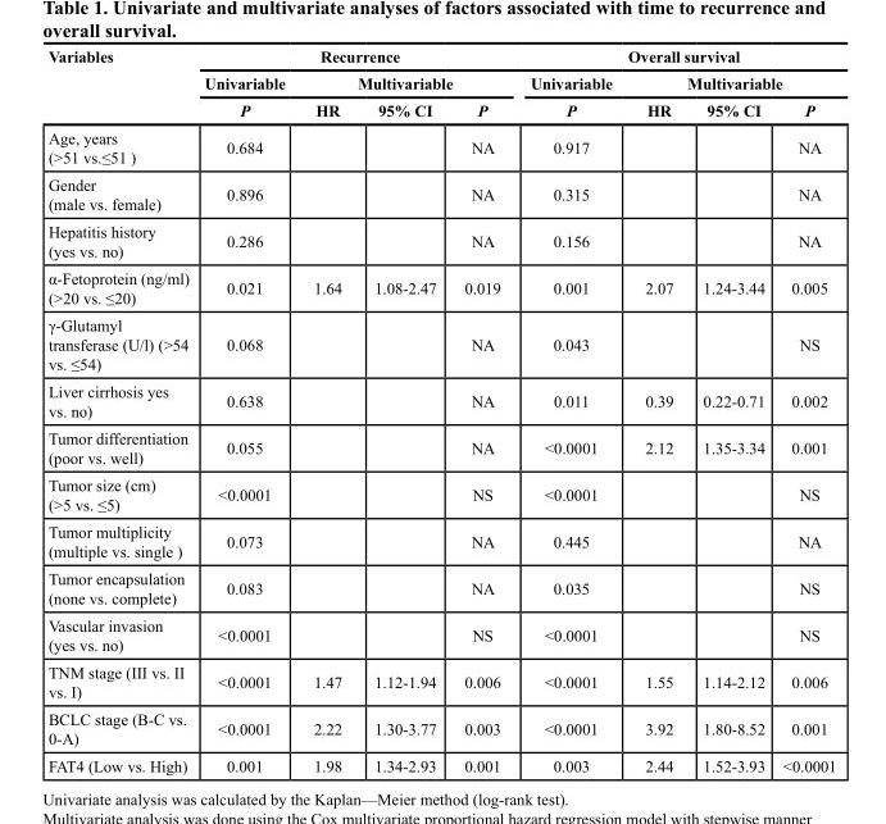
<table><thead><tr><td rowspan="3">Variables</td><td colspan="4">Recurrence</td><td colspan="4">Overall survival</td></tr><tr><td colspan="2">Univariable</td><td colspan="2">Multivariable</td><td colspan="2">Univariable</td><td colspan="2">Multivariable</td></tr><tr><td>P</td><td>HR</td><td>95% CI</td><td>P</td><td>P</td><td>HR</td><td>95% CI</td><td>P</td></tr></thead><tbody><tr><td>Age, years (&gt;51 vs.≤51 )</td><td>0.684</td><td></td><td></td><td>NA</td><td>0.917</td><td></td><td></td><td>NA</td></tr><tr><td>Gender (male vs. female)</td><td>0.896</td><td></td><td></td><td>NA</td><td>0.315</td><td></td><td></td><td>NA</td></tr><tr><td>Hepatitis history (yes vs. no)</td><td>0.286</td><td></td><td></td><td>NA</td><td>0.156</td><td></td><td></td><td>NA</td></tr><tr><td>α-Fetoprotein (ng/ml) (&gt;20 vs. ≤20)</td><td>0.021</td><td>1.64</td><td>1.08-2.47</td><td>0.019</td><td>0.001</td><td>2.07</td><td>1.24-3.44</td><td>0.005</td></tr><tr><td>γ-Glutamyl transferase (U/l) (&gt;54 vs. ≤54)</td><td>0.068</td><td></td><td></td><td>NA</td><td>0.043</td><td></td><td></td><td>NS</td></tr><tr><td>Liver cirrhosis yes vs. no)</td><td>0.638</td><td></td><td></td><td>NA</td><td>0.011</td><td>0.39</td><td>0.22-0.71</td><td>0.002</td></tr><tr><td>Tumor differentiation (poor vs. well)</td><td>0.055</td><td></td><td></td><td>NA</td><td>&lt;0.0001</td><td>2.12</td><td>1.35-3.34</td><td>0.001</td></tr><tr><td>Tumor size (cm) (&gt;5 vs. ≤5)</td><td>&lt;0.0001</td><td></td><td></td><td>NS</td><td>&lt;0.0001</td><td></td><td></td><td>NS</td></tr><tr><td>Tumor multiplicity (multiple vs. single )</td><td>0.073</td><td></td><td></td><td>NA</td><td>0.445</td><td></td><td></td><td>NA</td></tr><tr><td>Tumor encapsulation (none vs. complete)</td><td>0.083</td><td></td><td></td><td>NA</td><td>0.035</td><td></td><td></td><td>NS</td></tr><tr><td>Vascular invasion (yes vs. no)</td><td>&lt;0.0001</td><td></td><td></td><td>NS</td><td>&lt;0.0001</td><td></td><td></td><td>NS</td></tr><tr><td>TNM stage (III vs. II vs. I)</td><td>&lt;0.0001</td><td>1.47</td><td>1.12-1.94</td><td>0.006</td><td>&lt;0.0001</td><td>1.55</td><td>1.14-2.12</td><td>0.006</td></tr><tr><td>BCLC stage (B-C vs. 0-A)</td><td>&lt;0.0001</td><td>2.22</td><td>1.30-3.77</td><td>0.003</td><td>&lt;0.0001</td><td>3.92</td><td>1.80-8.52</td><td>0.001</td></tr><tr><td>FAT4 (Low vs. High)</td><td>0.001</td><td>1.98</td><td>1.34-2.93</td><td>0.001</td><td>0.003</td><td>2.44</td><td>1.52-3.93</td><td>&lt;0.0001</td></tr></tbody></table>